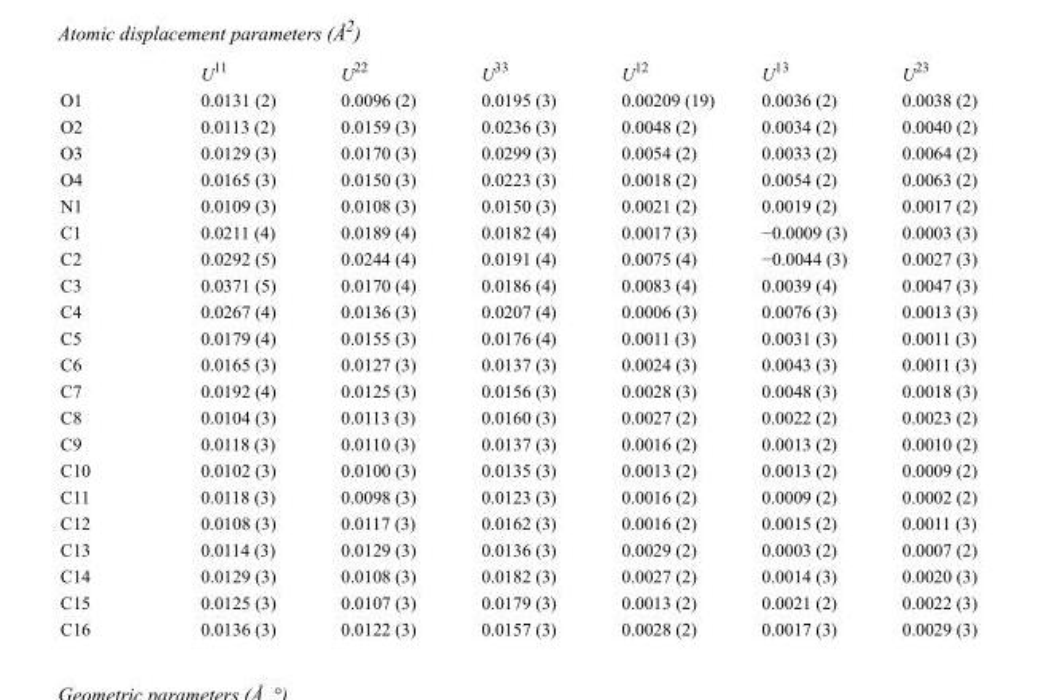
<table><thead><tr><td></td><td>U<sup>11</sup></td><td>U<sup>22</sup></td><td>U<sup>33</sup></td><td>U<sup>12</sup></td><td>U<sup>13</sup></td><td>U<sup>23</sup></td></tr></thead><tbody><tr><td>O1</td><td>0.0131 (2)</td><td>0.0096 (2)</td><td>0.0195 (3)</td><td>0.00209 (19)</td><td>0.0036 (2)</td><td>0.0038 (2)</td></tr><tr><td>O2</td><td>0.0113 (2)</td><td>0.0159 (3)</td><td>0.0236 (3)</td><td>0.0048 (2)</td><td>0.0034 (2)</td><td>0.0040 (2)</td></tr><tr><td>O3</td><td>0.0129 (3)</td><td>0.0170 (3)</td><td>0.0299 (3)</td><td>0.0054 (2)</td><td>0.0033 (2)</td><td>0.0064 (2)</td></tr><tr><td>O4</td><td>0.0165 (3)</td><td>0.0150 (3)</td><td>0.0223 (3)</td><td>0.0018 (2)</td><td>0.0054 (2)</td><td>0.0063 (2)</td></tr><tr><td>N1</td><td>0.0109 (3)</td><td>0.0108 (3)</td><td>0.0150 (3)</td><td>0.0021 (2)</td><td>0.0019 (2)</td><td>0.0017 (2)</td></tr><tr><td>C1</td><td>0.0211 (4)</td><td>0.0189 (4)</td><td>0.0182 (4)</td><td>0.0017 (3)</td><td>−0.0009 (3)</td><td>0.0003 (3)</td></tr><tr><td>C2</td><td>0.0292 (5)</td><td>0.0244 (4)</td><td>0.0191 (4)</td><td>0.0075 (4)</td><td>−0.0044 (3)</td><td>0.0027 (3)</td></tr><tr><td>C3</td><td>0.0371 (5)</td><td>0.0170 (4)</td><td>0.0186 (4)</td><td>0.0083 (4)</td><td>0.0039 (4)</td><td>0.0047 (3)</td></tr><tr><td>C4</td><td>0.0267 (4)</td><td>0.0136 (3)</td><td>0.0207 (4)</td><td>0.0006 (3)</td><td>0.0076 (3)</td><td>0.0013 (3)</td></tr><tr><td>C5</td><td>0.0179 (4)</td><td>0.0155 (3)</td><td>0.0176 (4)</td><td>0.0011 (3)</td><td>0.0031 (3)</td><td>0.0011 (3)</td></tr><tr><td>C6</td><td>0.0165 (3)</td><td>0.0127 (3)</td><td>0.0137 (3)</td><td>0.0024 (3)</td><td>0.0043 (3)</td><td>0.0011 (3)</td></tr><tr><td>C7</td><td>0.0192 (4)</td><td>0.0125 (3)</td><td>0.0156 (3)</td><td>0.0028 (3)</td><td>0.0048 (3)</td><td>0.0018 (3)</td></tr><tr><td>C8</td><td>0.0104 (3)</td><td>0.0113 (3)</td><td>0.0160 (3)</td><td>0.0027 (2)</td><td>0.0022 (2)</td><td>0.0023 (2)</td></tr><tr><td>C9</td><td>0.0118 (3)</td><td>0.0110 (3)</td><td>0.0137 (3)</td><td>0.0016 (2)</td><td>0.0013 (2)</td><td>0.0010 (2)</td></tr><tr><td>C10</td><td>0.0102 (3)</td><td>0.0100 (3)</td><td>0.0135 (3)</td><td>0.0013 (2)</td><td>0.0013 (2)</td><td>0.0009 (2)</td></tr><tr><td>C11</td><td>0.0118 (3)</td><td>0.0098 (3)</td><td>0.0123 (3)</td><td>0.0016 (2)</td><td>0.0009 (2)</td><td>0.0002 (2)</td></tr><tr><td>C12</td><td>0.0108 (3)</td><td>0.0117 (3)</td><td>0.0162 (3)</td><td>0.0016 (2)</td><td>0.0015 (2)</td><td>0.0011 (3)</td></tr><tr><td>C13</td><td>0.0114 (3)</td><td>0.0129 (3)</td><td>0.0136 (3)</td><td>0.0029 (2)</td><td>0.0003 (2)</td><td>0.0007 (2)</td></tr><tr><td>C14</td><td>0.0129 (3)</td><td>0.0108 (3)</td><td>0.0182 (3)</td><td>0.0027 (2)</td><td>0.0014 (3)</td><td>0.0020 (3)</td></tr><tr><td>C15</td><td>0.0125 (3)</td><td>0.0107 (3)</td><td>0.0179 (3)</td><td>0.0013 (2)</td><td>0.0021 (2)</td><td>0.0022 (3)</td></tr><tr><td>C16</td><td>0.0136 (3)</td><td>0.0122 (3)</td><td>0.0157 (3)</td><td>0.0028 (2)</td><td>0.0017 (3)</td><td>0.0029 (3)</td></tr></tbody></table>